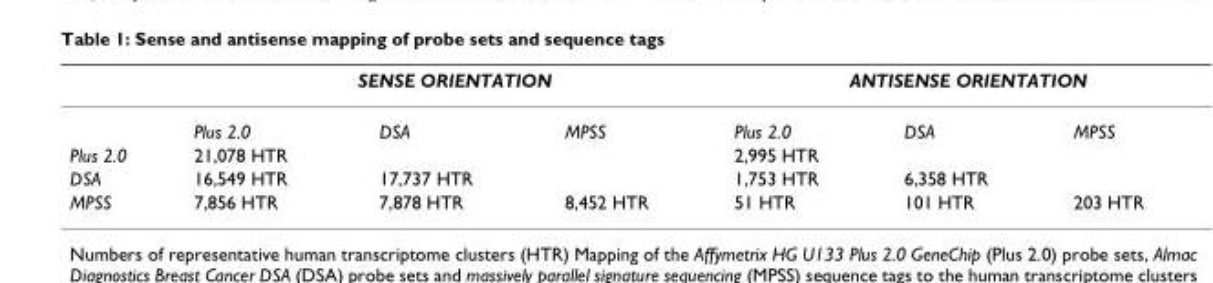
<table><thead><tr><td rowspan="2"></td><td colspan="3">SENSE ORIENTATION</td><td colspan="3">ANTISENSE ORIENTATION</td></tr><tr><td>Plus 2.0</td><td>DSA</td><td>MPSS</td><td>Plus 2.0</td><td>DSA</td><td>MPSS</td></tr></thead><tbody><tr><td>Plus 2.0</td><td>21,078 HTR</td><td></td><td></td><td>2,995 HTR</td><td></td><td></td></tr><tr><td>DSA</td><td>16,549 HTR</td><td>17,737 HTR</td><td></td><td>1,753 HTR</td><td>6,358 HTR</td><td></td></tr><tr><td>MPSS</td><td>7,856 HTR</td><td>7,878 HTR</td><td>8,452 HTR</td><td>51 HTR</td><td>101 HTR</td><td>203 HTR</td></tr></tbody></table>